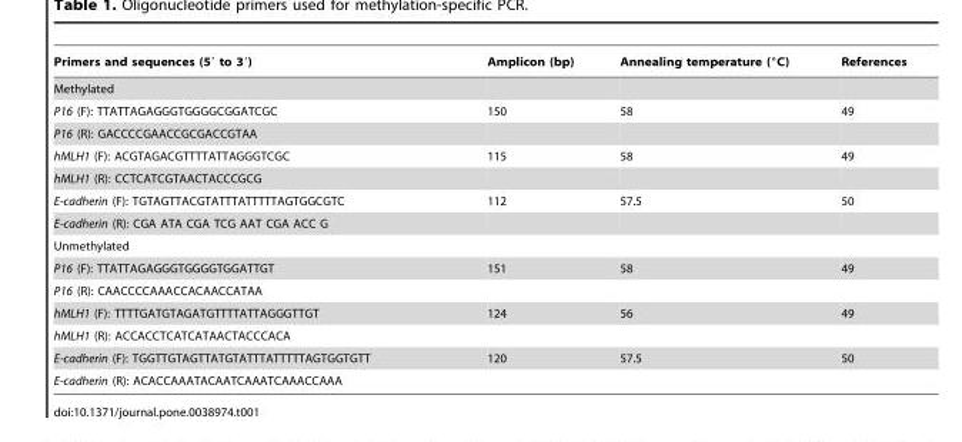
<table><thead><tr><td>Primers and sequences (5′ to 3′)</td><td>Amplicon (bp)</td><td>Annealing temperature (°C)</td><td>References</td></tr></thead><tbody><tr><td colspan="4">Methylated</td></tr><tr><td>P16 (F): TTATTAGAGGGTGGGGCGGATCGC</td><td>150</td><td>58</td><td>49</td></tr><tr><td colspan="4">P16 (R): GACCCCGAACCGCGACCGTAA</td></tr><tr><td>hMLH1 (F): ACGTAGACGTTTTATTAGGGTCGC</td><td>115</td><td>58</td><td>49</td></tr><tr><td colspan="4">hMLH1 (R): CCTCATCGTAACTACCCGCG</td></tr><tr><td>E-cadherin (F): TGTAGTTACGTATTTATTTTTAGTGGCGTC</td><td>112</td><td>57.5</td><td>50</td></tr><tr><td colspan="4">E-cadherin (R): CGA ATA CGA TCG AAT CGA ACC G</td></tr><tr><td colspan="4">Unmethylated</td></tr><tr><td>P16 (F): TTATTAGAGGGTGGGGTGGATTGT</td><td>151</td><td>58</td><td>49</td></tr><tr><td colspan="4">P16 (R): CAACCCCAAACCACAACCATAA</td></tr><tr><td>hMLH1 (F): TTTTGATGTAGATGTTTTATTAGGGTTGT</td><td>124</td><td>56</td><td>49</td></tr><tr><td colspan="4">hMLH1 (R): ACCACCTCATCATAACTACCCACA</td></tr><tr><td>E-cadherin (F): TGGTTGTAGTTATGTATTTATTTTTAGTGGTGTT</td><td>120</td><td>57.5</td><td>50</td></tr><tr><td>E-cadherin (R): ACACCAAATACAATCAAATCAAACCAAA</td><td></td><td></td><td></td></tr></tbody></table>